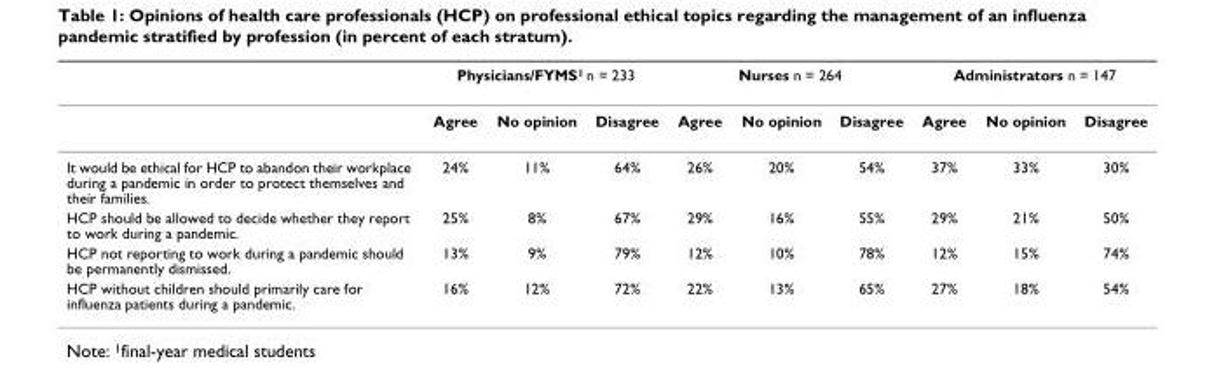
<table><thead><tr><td rowspan="2"></td><td colspan="3">Physicians/FYMS1 n = 233</td><td colspan="3">Nurses n = 264</td><td colspan="3">Administrators n = 147</td></tr><tr><td>Agree</td><td>No opinion</td><td>Disagree</td><td>Agree</td><td>No opinion</td><td>Disagree</td><td>Agree</td><td>No opinion</td><td>Disagree</td></tr></thead><tbody><tr><td>It would be ethical for HCP to abandon their workplace during a pandemic in order to protect themselves and their families.</td><td>24%</td><td>11%</td><td>64%</td><td>26%</td><td>20%</td><td>54%</td><td>37%</td><td>33%</td><td>30%</td></tr><tr><td>HCP should be allowed to decide whether they report to work during a pandemic.</td><td>25%</td><td>8%</td><td>67%</td><td>29%</td><td>16%</td><td>55%</td><td>29%</td><td>21%</td><td>50%</td></tr><tr><td>HCP not reporting to work during a pandemic should be permanently dismissed.</td><td>13%</td><td>9%</td><td>79%</td><td>12%</td><td>10%</td><td>78%</td><td>12%</td><td>15%</td><td>74%</td></tr><tr><td>HCP without children should primarily care for influenza patients during a pandemic.</td><td>16%</td><td>12%</td><td>72%</td><td>22%</td><td>13%</td><td>65%</td><td>27%</td><td>18%</td><td>54%</td></tr></tbody></table>